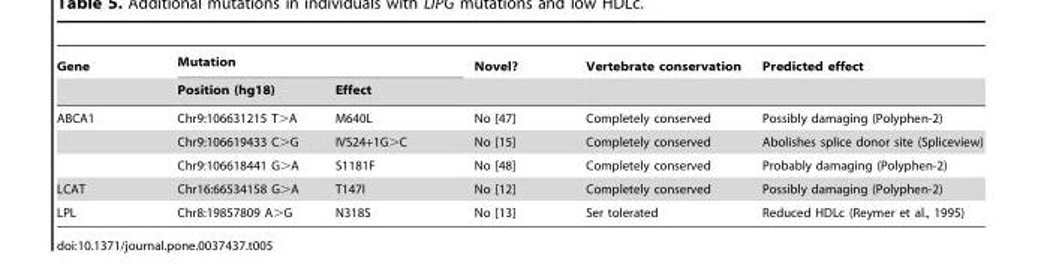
<table><thead><tr><td rowspan="2">Gene</td><td colspan="2">Mutation</td><td rowspan="2">Novel?</td><td rowspan="2">Vertebrate conservation</td><td rowspan="2">Predicted effect</td></tr><tr><td>Position (hg18)</td><td>Effect</td></tr></thead><tbody><tr><td rowspan="3">ABCA1</td><td>Chr9:106631215 T&gt;A</td><td>M640L</td><td>No [47]</td><td>Completely conserved</td><td>Possibly damaging (Polyphen-2)</td></tr><tr><td>Chr9:106619433 C&gt;G</td><td>IVS24+1G&gt;C</td><td>No [15]</td><td>Completely conserved</td><td>Abolishes splice donor site (Spliceview)</td></tr><tr><td>Chr9:106618441 G&gt;A</td><td>S1181F</td><td>No [48]</td><td>Completely conserved</td><td>Probably damaging (Polyphen-2)</td></tr><tr><td>LCAT</td><td>Chr16:66534158 G&gt;A</td><td>T147I</td><td>No [12]</td><td>Completely conserved</td><td>Possibly damaging (Polyphen-2)</td></tr><tr><td>LPL</td><td>Chr8:19857809 A&gt;G</td><td>N318S</td><td>No [13]</td><td>Ser tolerated</td><td>Reduced HDLc (Reymer et al., 1995)</td></tr></tbody></table>